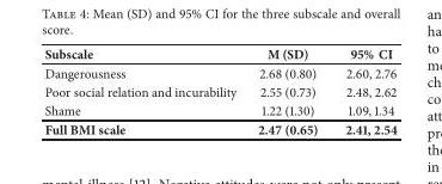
<table><thead><tr><td>Subscale</td><td>M (SD)</td><td>95% CI</td></tr></thead><tbody><tr><td>Dangerousness</td><td>2.68 (0.80)</td><td>2.60, 2.76</td></tr><tr><td>Poor social relation and incurability</td><td>2.55 (0.73)</td><td>2.48, 2.62</td></tr><tr><td>Shame</td><td>1.22 (1.30)</td><td>1.09, 1.34</td></tr><tr><td>Full BMI scale</td><td>2.47 (0.65)</td><td>2.41, 2.54</td></tr></tbody></table>